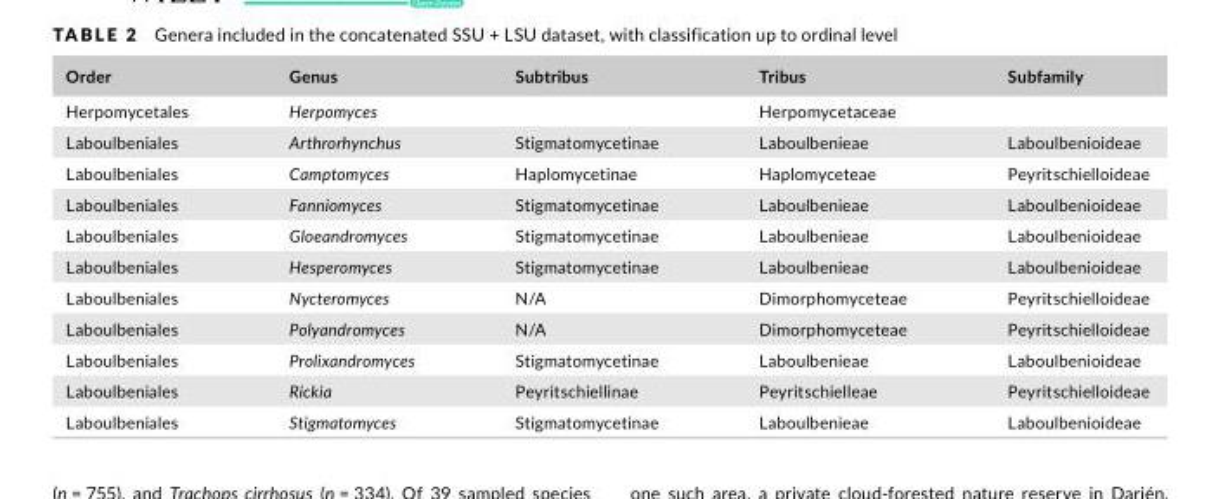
<table><thead><tr><td>Order</td><td>Genus</td><td>Subtribus</td><td>Tribus</td><td>Subfamily</td></tr></thead><tbody><tr><td>Herpomycetales</td><td>Herpomyces</td><td></td><td>Herpomycetaceae</td><td></td></tr><tr><td>Laboulbeniales</td><td>Arthrorhynchus</td><td>Stigmatomycetinae</td><td>Laboulbenieae</td><td>Laboulbenioideae</td></tr><tr><td>Laboulbeniales</td><td>Camptomyces</td><td>Haplomycetinae</td><td>Haplomyceteae</td><td>Peyritschielloideae</td></tr><tr><td>Laboulbeniales</td><td>Fanniomyces</td><td>Stigmatomycetinae</td><td>Laboulbenieae</td><td>Laboulbenioideae</td></tr><tr><td>Laboulbeniales</td><td>Gloeandromyces</td><td>Stigmatomycetinae</td><td>Laboulbenieae</td><td>Laboulbenioideae</td></tr><tr><td>Laboulbeniales</td><td>Hesperomyces</td><td>Stigmatomycetinae</td><td>Laboulbenieae</td><td>Laboulbenioideae</td></tr><tr><td>Laboulbeniales</td><td>Nycteromyces</td><td>N/A</td><td>Dimorphomyceteae</td><td>Peyritschielloideae</td></tr><tr><td>Laboulbeniales</td><td>Polyandromyces</td><td>N/A</td><td>Dimorphomyceteae</td><td>Peyritschielloideae</td></tr><tr><td>Laboulbeniales</td><td>Prolixandromyces</td><td>Stigmatomycetinae</td><td>Laboulbenieae</td><td>Laboulbenioideae</td></tr><tr><td>Laboulbeniales</td><td>Rickia</td><td>Peyritschiellinae</td><td>Peyritschielleae</td><td>Peyritschielloideae</td></tr><tr><td>Laboulbeniales</td><td>Stigmatomyces</td><td>Stigmatomycetinae</td><td>Laboulbenieae</td><td>Laboulbenioideae</td></tr></tbody></table>